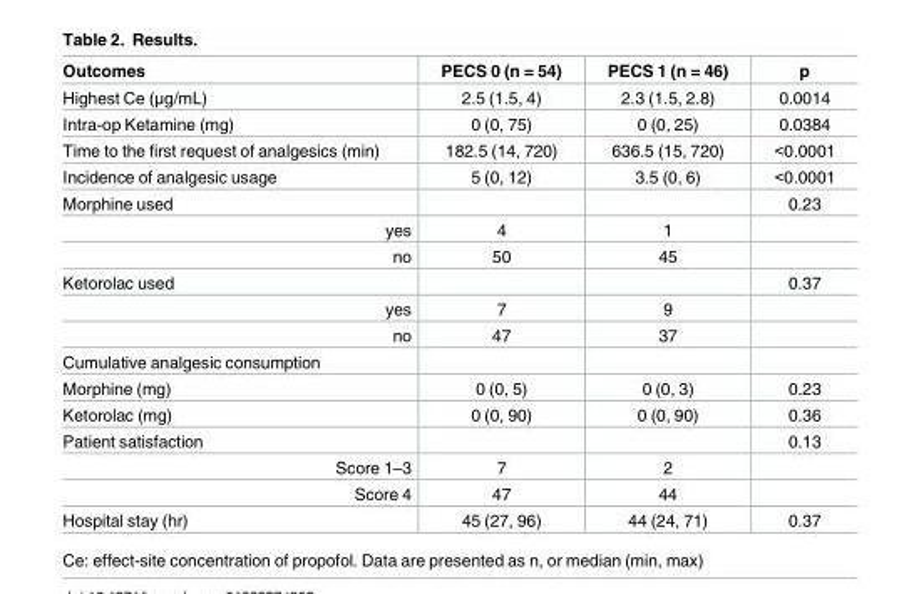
<table><thead><tr><td>Outcomes</td><td>PECS 0 (n = 54)</td><td>PECS 1 (n = 46)</td><td>p</td></tr></thead><tbody><tr><td>Highest Ce (μg/mL)</td><td>2.5 (1.5, 4)</td><td>2.3 (1.5, 2.8)</td><td>0.0014</td></tr><tr><td>Intra-op Ketamine (mg)</td><td>0 (0, 75)</td><td>0 (0, 25)</td><td>0.0384</td></tr><tr><td>Time to the first request of analgesics (min)</td><td>182.5 (14, 720)</td><td>636.5 (15, 720)</td><td>&lt;0.0001</td></tr><tr><td>Incidence of analgesic usage</td><td>5 (0, 12)</td><td>3.5 (0, 6)</td><td>&lt;0.0001</td></tr><tr><td>Morphine used</td><td></td><td></td><td>0.23</td></tr><tr><td>yes</td><td>4</td><td>1</td><td></td></tr><tr><td>no</td><td>50</td><td>45</td><td></td></tr><tr><td>Ketorolac used</td><td></td><td></td><td>0.37</td></tr><tr><td>yes</td><td>7</td><td>9</td><td></td></tr><tr><td>no</td><td>47</td><td>37</td><td></td></tr><tr><td colspan="4">Cumulative analgesic consumption</td></tr><tr><td>Morphine (mg)</td><td>0 (0, 5)</td><td>0 (0, 3)</td><td>0.23</td></tr><tr><td>Ketorolac (mg)</td><td>0 (0, 90)</td><td>0 (0, 90)</td><td>0.36</td></tr><tr><td>Patient satisfaction</td><td></td><td></td><td>0.13</td></tr><tr><td>Score 1–3</td><td>7</td><td>2</td><td></td></tr><tr><td>Score 4</td><td>47</td><td>44</td><td></td></tr><tr><td>Hospital stay (hr)</td><td>45 (27, 96)</td><td>44 (24, 71)</td><td>0.37</td></tr></tbody></table>